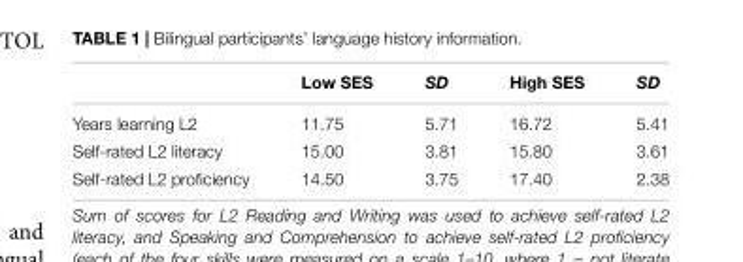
<table><thead><tr><td></td><td>Low SES</td><td>SD</td><td>High SES</td><td>SD</td></tr></thead><tbody><tr><td>Years learning L2</td><td>11.75</td><td>5.71</td><td>16.72</td><td>5.41</td></tr><tr><td>Self-rated L2 literacy</td><td>15.00</td><td>3.81</td><td>15.80</td><td>3.61</td></tr><tr><td>Self-rated L2 proficiency</td><td>14.50</td><td>3.75</td><td>17.40</td><td>2.38</td></tr></tbody></table>